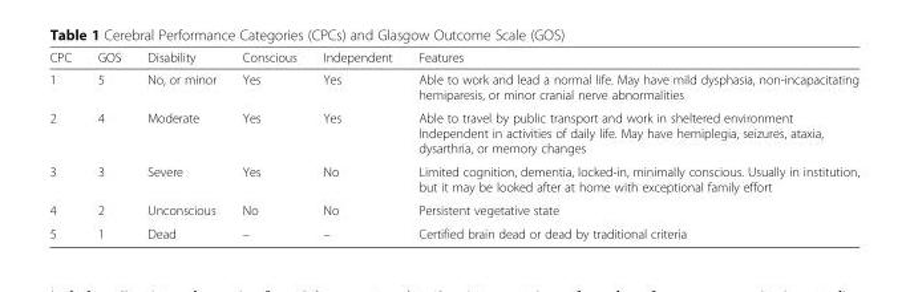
<table><thead><tr><td>CPC</td><td>GOS</td><td>Disability</td><td>Conscious</td><td>Independent</td><td>Features</td></tr></thead><tbody><tr><td>1</td><td>5</td><td>No, or minor</td><td>Yes</td><td>Yes</td><td>Able to work and lead a normal life. May have mild dysphasia, non-incapacitating hemiparesis, or minor cranial nerve abnormalities</td></tr><tr><td>2</td><td>4</td><td>Moderate</td><td>Yes</td><td>Yes</td><td>Able to travel by public transport and work in sheltered environment Independent in activities of daily life. May have hemiplegia, seizures, ataxia, dysarthria, or memory changes</td></tr><tr><td>3</td><td>3</td><td>Severe</td><td>Yes</td><td>No</td><td>Limited cognition, dementia, locked-in, minimally conscious. Usually in institution, but it may be looked after at home with exceptional family effort</td></tr><tr><td>4</td><td>2</td><td>Unconscious</td><td>No</td><td>No</td><td>Persistent vegetative state</td></tr><tr><td>5</td><td>1</td><td>Dead</td><td>–</td><td>–</td><td>Certified brain dead or dead by traditional criteria</td></tr></tbody></table>